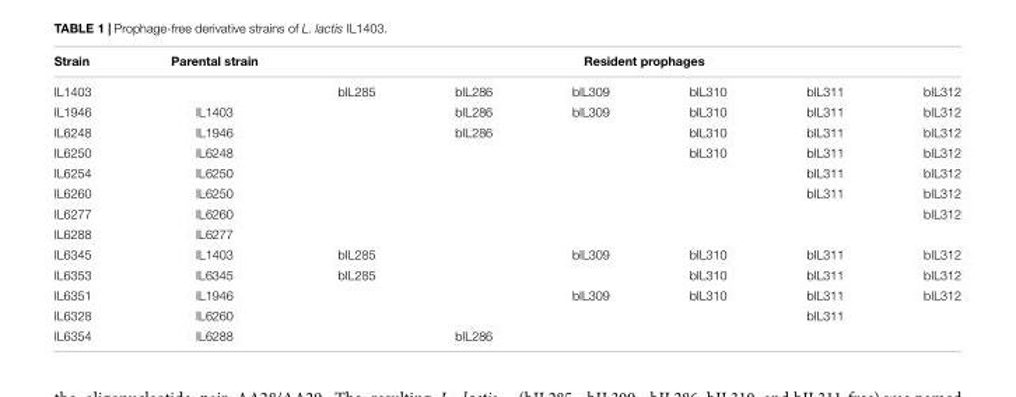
<table><thead><tr><td rowspan="2">Strain IL1403</td><td rowspan="2">Parental strain</td><td colspan="6">Resident prophages</td></tr><tr><td>bIL285</td><td>bIL286</td><td>bIL309</td><td>bIL310</td><td>bIL311</td><td>bIL312</td></tr></thead><tbody><tr><td>IL1946</td><td>IL1403</td><td></td><td>bIL286</td><td>bIL309</td><td>bIL310</td><td>bIL311</td><td>bIL312</td></tr><tr><td>IL6248</td><td>IL1946</td><td></td><td>bIL286</td><td></td><td>bIL310</td><td>bIL311</td><td>bIL312</td></tr><tr><td>IL6250</td><td>IL6248</td><td></td><td></td><td></td><td>bIL310</td><td>bIL311</td><td>bIL312</td></tr><tr><td>IL6254</td><td>IL6250</td><td></td><td></td><td></td><td></td><td>bIL311</td><td>bIL312</td></tr><tr><td>IL6260</td><td>IL6250</td><td></td><td></td><td></td><td></td><td>bIL311</td><td>bIL312</td></tr><tr><td>IL6277</td><td>IL6260</td><td></td><td></td><td></td><td></td><td></td><td>bIL312</td></tr><tr><td>IL6288</td><td>IL6277</td><td></td><td></td><td></td><td></td><td></td><td></td></tr><tr><td>IL6345</td><td>IL1403</td><td>bIL285</td><td></td><td>bIL309</td><td>bIL310</td><td>bIL311</td><td>bIL312</td></tr><tr><td>IL6353</td><td>IL6345</td><td>bIL285</td><td></td><td></td><td>bIL310</td><td>bIL311</td><td>bIL312</td></tr><tr><td>IL6351</td><td>IL1946</td><td></td><td></td><td>bIL309</td><td>bIL310</td><td>bIL311</td><td>bIL312</td></tr><tr><td>IL6328</td><td>IL6260</td><td></td><td></td><td></td><td></td><td>bIL311</td><td></td></tr><tr><td>IL6354</td><td>IL6288</td><td></td><td>bIL286</td><td></td><td></td><td></td><td></td></tr></tbody></table>